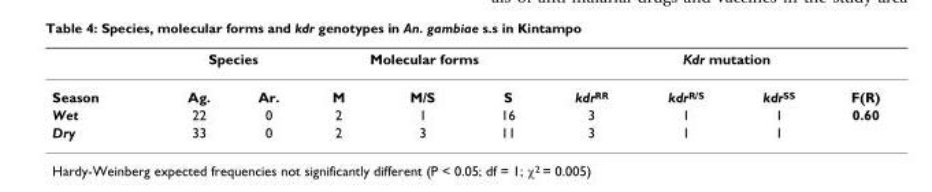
<table><thead><tr><td rowspan="2">Season</td><td colspan="2">Species</td><td colspan="3">Molecular forms</td><td colspan="4">Kdr mutation</td></tr><tr><td>Ag.</td><td>Ar.</td><td>M</td><td>M/S</td><td>S</td><td>kdr<sup>RR</sup></td><td>kdr<sup>R/S</sup></td><td>kdr<sup>SS</sup></td><td>F(R)</td></tr></thead><tbody><tr><td>Wet</td><td>22</td><td>0</td><td>2</td><td>1</td><td>16</td><td>3</td><td>1</td><td>1</td><td>0.60</td></tr><tr><td>Dry</td><td>33</td><td>0</td><td>2</td><td>3</td><td>11</td><td>3</td><td>1</td><td>1</td><td></td></tr></tbody></table>